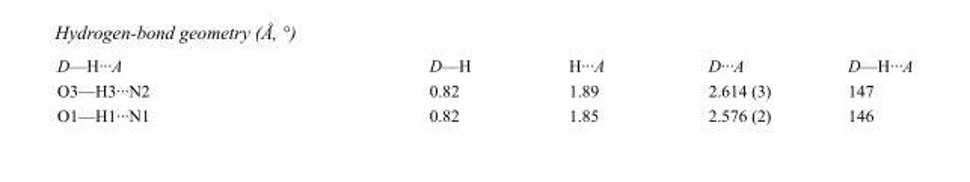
<table><tbody><tr><td>D—H···A</td><td>D—H</td><td>H···A</td><td>D···A</td><td>D—H···A</td></tr><tr><td>O3—H3···N2</td><td>0.82</td><td>1.89</td><td>2.614 (3)</td><td>147</td></tr><tr><td>O1—H1···N1</td><td>0.82</td><td>1.85</td><td>2.576 (2)</td><td>146</td></tr></tbody></table>